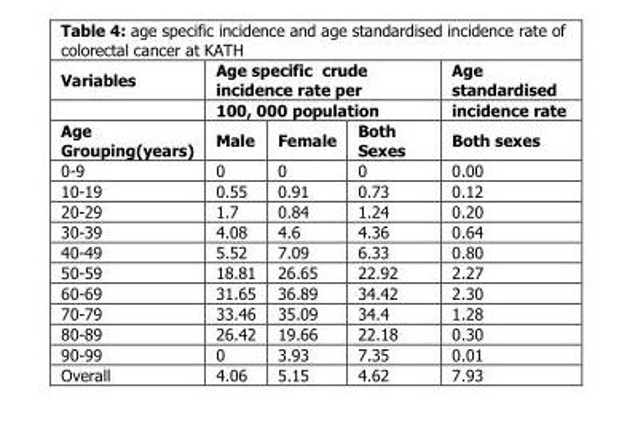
<table><thead><tr><td rowspan="3">Variables Age Grouping(years)</td><td rowspan="2" colspan="3">Age specific crude incidence rate per 100, 000 population</td><td rowspan="3">Age standardised incidence rate Both sexes</td></tr><tr></tr><tr><td>Male</td><td>Female</td><td>Both Sexes</td></tr></thead><tbody><tr><td>0-9</td><td>0</td><td>0</td><td>0</td><td>0.00</td></tr><tr><td>10-19</td><td>0.55</td><td>0.91</td><td>0.73</td><td>0.12</td></tr><tr><td>20-29</td><td>1.7</td><td>0.84</td><td>1.24</td><td>0.20</td></tr><tr><td>30-39</td><td>4.08</td><td>4.6</td><td>4.36</td><td>0.64</td></tr><tr><td>40-49</td><td>5.52</td><td>7.09</td><td>6.33</td><td>0.80</td></tr><tr><td>50-59</td><td>18.81</td><td>26.65</td><td>22.92</td><td>2.27</td></tr><tr><td>60-69</td><td>31.65</td><td>36.89</td><td>34.42</td><td>2.30</td></tr><tr><td>70-79</td><td>33.46</td><td>35.09</td><td>34.4</td><td>1.28</td></tr><tr><td>80-89</td><td>26.42</td><td>19.66</td><td>22.18</td><td>0.30</td></tr><tr><td>90-99</td><td>0</td><td>3.93</td><td>7.35</td><td>0.01</td></tr><tr><td>Overall</td><td>4.06</td><td>5.15</td><td>4.62</td><td>7.93</td></tr></tbody></table>